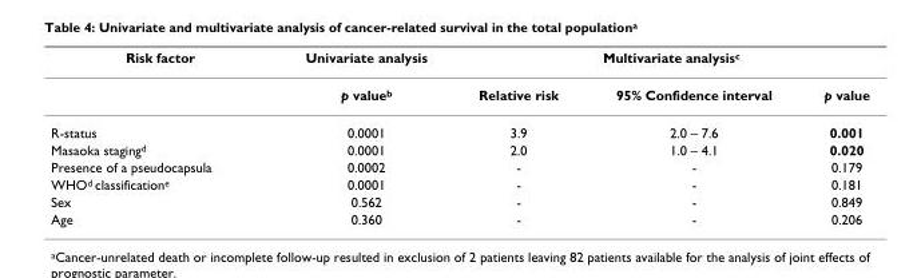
<table><thead><tr><td rowspan="2">Risk factor</td><td rowspan="2">Univariate analysis p valueb</td><td colspan="3">Multivariate analysisc</td></tr><tr><td>Relative risk</td><td>95% Confidence interval</td><td>p value</td></tr></thead><tbody><tr><td>R-status</td><td>0.0001</td><td>3.9</td><td>2.0 – 7.6</td><td>0.001</td></tr><tr><td>Masaoka staging<sup>d</sup></td><td>0.0001</td><td>2.0</td><td>1.0 – 4.1</td><td>0.020</td></tr><tr><td>Presence of a pseudocapsula</td><td>0.0002</td><td>-</td><td>-</td><td>0.179</td></tr><tr><td>WHO<sup>d</sup> classification<sup>e</sup></td><td>0.0001</td><td>-</td><td>-</td><td>0.181</td></tr><tr><td>Sex</td><td>0.562</td><td>-</td><td>-</td><td>0.849</td></tr><tr><td>Age</td><td>0.360</td><td>-</td><td>-</td><td>0.206</td></tr></tbody></table>